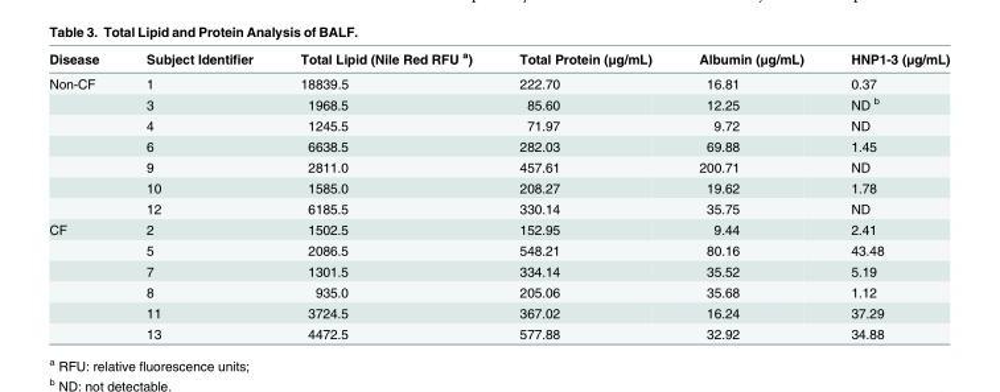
<table><thead><tr><td>Disease</td><td>Subject Identifier</td><td>Total Lipid (Nile Red RFU <sup>a</sup>)</td><td>Total Protein (μg/mL)</td><td>Albumin (μg/mL)</td><td>HNP1-3 (μg/mL)</td></tr></thead><tbody><tr><td rowspan="7">Non-CF</td><td>1</td><td>18839.5</td><td>222.70</td><td>16.81</td><td>0.37</td></tr><tr><td>3</td><td>1968.5</td><td>85.60</td><td>12.25</td><td>ND <sup>b</sup></td></tr><tr><td>4</td><td>1245.5</td><td>71.97</td><td>9.72</td><td>ND</td></tr><tr><td>6</td><td>6638.5</td><td>282.03</td><td>69.88</td><td>1.45</td></tr><tr><td>9</td><td>2811.0</td><td>457.61</td><td>200.71</td><td>ND</td></tr><tr><td>10</td><td>1585.0</td><td>208.27</td><td>19.62</td><td>1.78</td></tr><tr><td>12</td><td>6185.5</td><td>330.14</td><td>35.75</td><td>ND</td></tr><tr><td rowspan="6">CF</td><td>2</td><td>1502.5</td><td>152.95</td><td>9.44</td><td>2.41</td></tr><tr><td>5</td><td>2086.5</td><td>548.21</td><td>80.16</td><td>43.48</td></tr><tr><td>7</td><td>1301.5</td><td>334.14</td><td>35.52</td><td>5.19</td></tr><tr><td>8</td><td>935.0</td><td>205.06</td><td>35.68</td><td>1.12</td></tr><tr><td>11</td><td>3724.5</td><td>367.02</td><td>16.24</td><td>37.29</td></tr><tr><td>13</td><td>4472.5</td><td>577.88</td><td>32.92</td><td>34.88</td></tr></tbody></table>